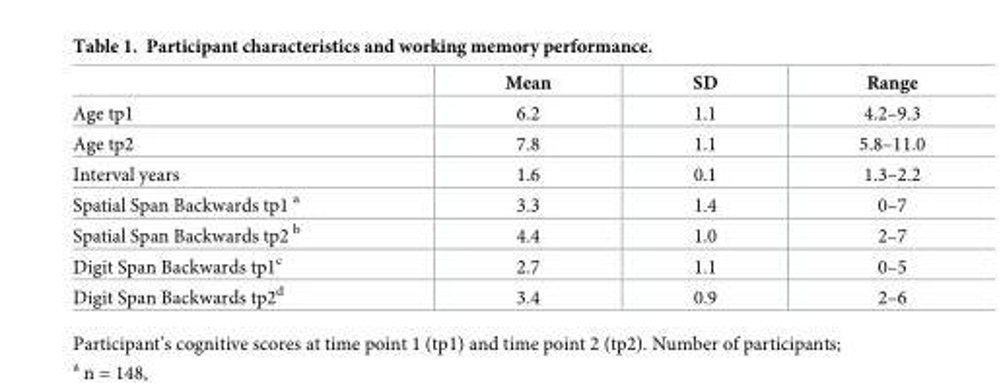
<table><thead><tr><td></td><td>Mean</td><td>SD</td><td>Range</td></tr></thead><tbody><tr><td>Age tp1</td><td>6.2</td><td>1.1</td><td>4.2–9.3</td></tr><tr><td>Age tp2</td><td>7.8</td><td>1.1</td><td>5.8–11.0</td></tr><tr><td>Interval years</td><td>1.6</td><td>0.1</td><td>1.3–2.2</td></tr><tr><td>Spatial Span Backwards tp1 <sup>a</sup></td><td>3.3</td><td>1.4</td><td>0–7</td></tr><tr><td>Spatial Span Backwards tp2 <sup>b</sup></td><td>4.4</td><td>1.0</td><td>2–7</td></tr><tr><td>Digit Span Backwards tp1<sup>c</sup></td><td>2.7</td><td>1.1</td><td>0–5</td></tr><tr><td>Digit Span Backwards tp2<sup>d</sup></td><td>3.4</td><td>0.9</td><td>2–6</td></tr></tbody></table>